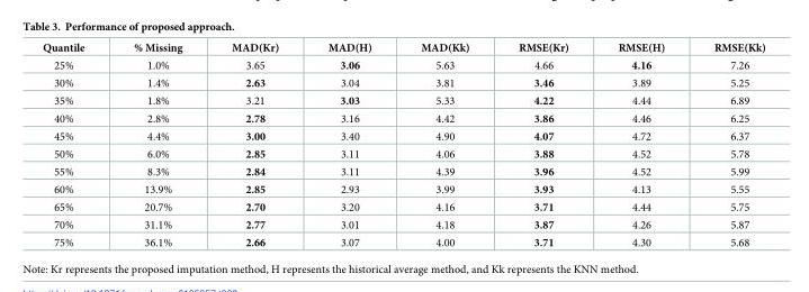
<table><thead><tr><td>Quantile</td><td>% Missing</td><td>MAD(Kr)</td><td>MAD(H)</td><td>MAD(Kk)</td><td>RMSE(Kr)</td><td>RMSE(H)</td><td>RMSE(Kk)</td></tr></thead><tbody><tr><td>25%</td><td>1.0%</td><td>3.65</td><td>3.06</td><td>5.63</td><td>4.66</td><td>4.16</td><td>7.26</td></tr><tr><td>30%</td><td>1.4%</td><td>2.63</td><td>3.04</td><td>3.81</td><td>3.46</td><td>3.89</td><td>5.25</td></tr><tr><td>35%</td><td>1.8%</td><td>3.21</td><td>3.03</td><td>5.33</td><td>4.22</td><td>4.44</td><td>6.89</td></tr><tr><td>40%</td><td>2.8%</td><td>2.78</td><td>3.16</td><td>4.42</td><td>3.86</td><td>4.46</td><td>6.25</td></tr><tr><td>45%</td><td>4.4%</td><td>3.00</td><td>3.40</td><td>4.90</td><td>4.07</td><td>4.72</td><td>6.37</td></tr><tr><td>50%</td><td>6.0%</td><td>2.85</td><td>3.11</td><td>4.06</td><td>3.88</td><td>4.52</td><td>5.78</td></tr><tr><td>55%</td><td>8.3%</td><td>2.84</td><td>3.11</td><td>4.39</td><td>3.96</td><td>4.52</td><td>5.99</td></tr><tr><td>60%</td><td>13.9%</td><td>2.85</td><td>2.93</td><td>3.99</td><td>3.93</td><td>4.13</td><td>5.55</td></tr><tr><td>65%</td><td>20.7%</td><td>2.70</td><td>3.20</td><td>4.16</td><td>3.71</td><td>4.44</td><td>5.75</td></tr><tr><td>70%</td><td>31.1%</td><td>2.77</td><td>3.01</td><td>4.18</td><td>3.87</td><td>4.26</td><td>5.87</td></tr><tr><td>75%</td><td>36.1%</td><td>2.66</td><td>3.07</td><td>4.00</td><td>3.71</td><td>4.30</td><td>5.68</td></tr></tbody></table>